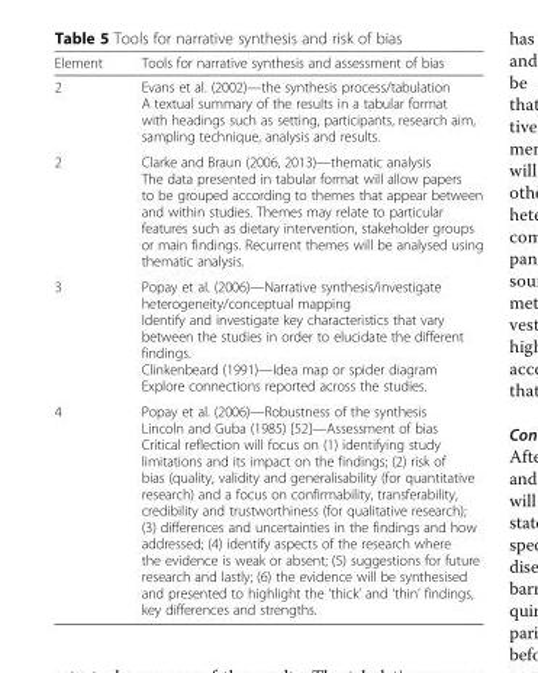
<table><thead><tr><td>Element</td><td>Tools for narrative synthesis and assessment of bias</td></tr></thead><tbody><tr><td>2</td><td>Evans et al. (2002)—the synthesis process/tabulation A textual summary of the results in a tabular format with headings such as setting, participants, research aim, sampling technique, analysis and results.</td></tr><tr><td>2</td><td>Clarke and Braun (2006, 2013)—thematic analysis The data presented in tabular format will allow papers to be grouped according to themes that appear between and within studies. Themes may relate to particular features such as dietary intervention, stakeholder groups or main findings. Recurrent themes will be analysed using thematic analysis.</td></tr><tr><td>3</td><td>Popay et al. (2006)—Narrative synthesis/investigate heterogeneity/conceptual mapping Identify and investigate key characteristics that vary between the studies in order to elucidate the different findings. Clinkenbeard (1991)—Idea map or spider diagram Explore connections reported across the studies.</td></tr><tr><td>4</td><td>Popay et al. (2006)—Robustness of the synthesis Lincoln and Guba (1985) [52]—Assessment of bias Critical reflection will focus on (1) identifying study limitations and its impact on the findings; (2) risk of bias (quality, validity and generalisability (for quantitative research) and a focus on confirmability, transferability, credibility and trustworthiness (for qualitative research); (3) differences and uncertainties in the findings and how addressed; (4) identify aspects of the research where the evidence is weak or absent; (5) suggestions for future research and lastly; (6) the evidence will be synthesised and presented to highlight the ‘thick’ and ‘thin’ findings, key differences and strengths.</td></tr></tbody></table>